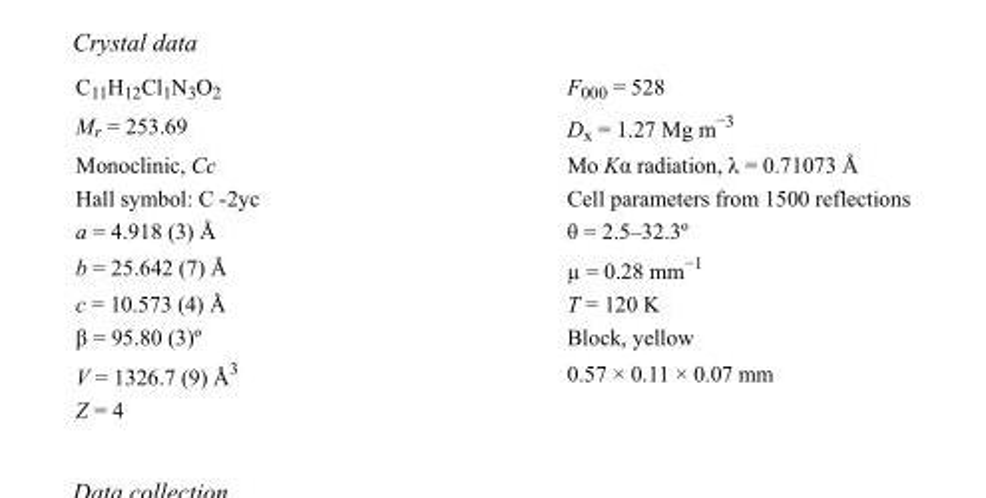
<table><tbody><tr><td>C11H12Cl1N3O2</td><td>F000 = 528</td></tr><tr><td>M<sub>r</sub> = 253.69</td><td>D<sub>x</sub> = 1.27 Mg m<sup>−3</sup></td></tr><tr><td>Monoclinic, Cc</td><td>Mo Kα radiation, λ = 0.71073 Å</td></tr><tr><td>Hall symbol: C -2yc</td><td>Cell parameters from 1500 reflections</td></tr><tr><td>a = 4.918 (3) Å</td><td>θ = 2.5–32.3º</td></tr><tr><td>b = 25.642 (7) Å</td><td>µ = 0.28 mm<sup>−1</sup></td></tr><tr><td>c = 10.573 (4) Å</td><td>T = 120 K</td></tr><tr><td>β = 95.80 (3)º</td><td>Block, yellow</td></tr><tr><td>V = 1326.7 (9) Å<sup>3</sup></td><td>0.57 × 0.11 × 0.07 mm</td></tr><tr><td>Z = 4</td><td></td></tr></tbody></table>